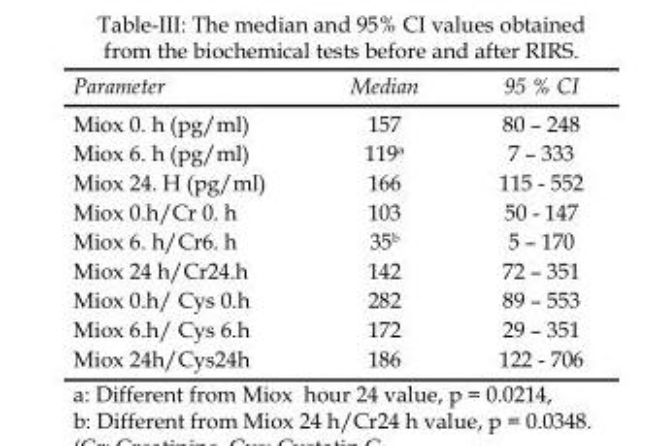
<table><thead><tr><td>Parameter</td><td>Median</td><td>95 % CI</td></tr></thead><tbody><tr><td>Miox 0. h (pg/ml)</td><td>157</td><td>80 – 248</td></tr><tr><td>Miox 6. h (pg/ml)</td><td>119<sup>a</sup></td><td>7 – 333</td></tr><tr><td>Miox 24. H (pg/ml)</td><td>166</td><td>115 - 552</td></tr><tr><td>Miox 0.h/Cr 0. h</td><td>103</td><td>50 - 147</td></tr><tr><td>Miox 6. h/Cr6. h</td><td>35<sup>b</sup></td><td>5 – 170</td></tr><tr><td>Miox 24 h/Cr24.h</td><td>142</td><td>72 – 351</td></tr><tr><td>Miox 0.h/ Cys 0.h</td><td>282</td><td>89 – 553</td></tr><tr><td>Miox 6.h/ Cys 6.h</td><td>172</td><td>29 – 351</td></tr><tr><td>Miox 24h/Cys24h</td><td>186</td><td>122 - 706</td></tr></tbody></table>